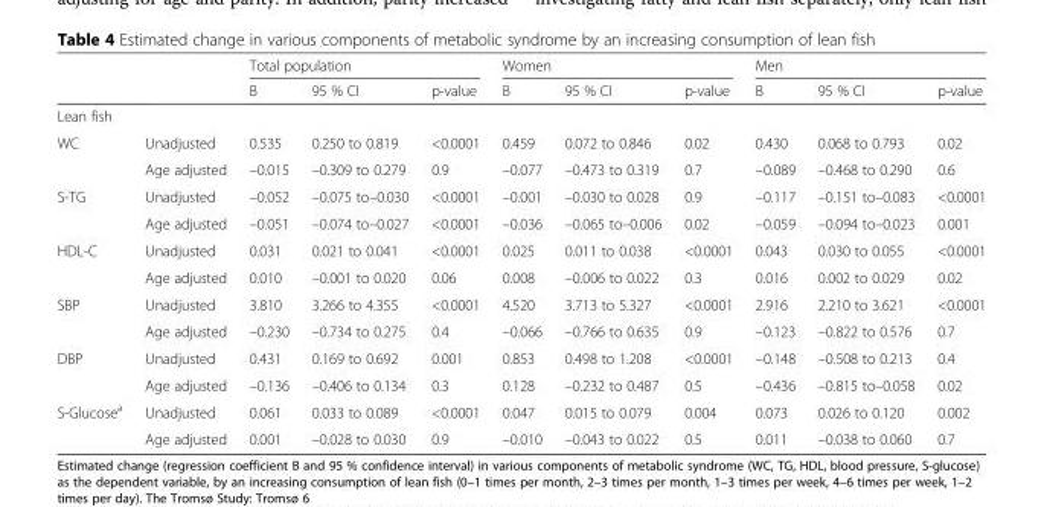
<table><thead><tr><td rowspan="2"></td><td rowspan="2"></td><td colspan="3">Total population</td><td colspan="3">Women</td><td colspan="3">Men</td></tr><tr><td>B</td><td>95 % CI</td><td>p-value</td><td>B</td><td>95 % CI</td><td>p-value</td><td>B</td><td>95 % CI</td><td>p-value</td></tr></thead><tbody><tr><td colspan="11">Lean fish</td></tr><tr><td rowspan="2">WC</td><td>Unadjusted</td><td>0.535</td><td>0.250 to 0.819</td><td>&lt;0.0001</td><td>0.459</td><td>0.072 to 0.846</td><td>0.02</td><td>0.430</td><td>0.068 to 0.793</td><td>0.02</td></tr><tr><td>Age adjusted</td><td>–0.015</td><td>–0.309 to 0.279</td><td>0.9</td><td>–0.077</td><td>–0.473 to 0.319</td><td>0.7</td><td>–0.089</td><td>–0.468 to 0.290</td><td>0.6</td></tr><tr><td rowspan="2">S-TG</td><td>Unadjusted</td><td>–0.052</td><td>–0.075 to–0.030</td><td>&lt;0.0001</td><td>–0.001</td><td>–0.030 to 0.028</td><td>0.9</td><td>–0.117</td><td>–0.151 to–0.083</td><td>&lt;0.0001</td></tr><tr><td>Age adjusted</td><td>–0.051</td><td>–0.074 to–0.027</td><td>&lt;0.0001</td><td>–0.036</td><td>–0.065 to–0.006</td><td>0.02</td><td>–0.059</td><td>–0.094 to–0.023</td><td>0.001</td></tr><tr><td rowspan="2">HDL-C</td><td>Unadjusted</td><td>0.031</td><td>0.021 to 0.041</td><td>&lt;0.0001</td><td>0.025</td><td>0.011 to 0.038</td><td>&lt;0.0001</td><td>0.043</td><td>0.030 to 0.055</td><td>&lt;0.0001</td></tr><tr><td>Age adjusted</td><td>0.010</td><td>–0.001 to 0.020</td><td>0.06</td><td>0.008</td><td>–0.006 to 0.022</td><td>0.3</td><td>0.016</td><td>0.002 to 0.029</td><td>0.02</td></tr><tr><td rowspan="2">SBP</td><td>Unadjusted</td><td>3.810</td><td>3.266 to 4.355</td><td>&lt;0.0001</td><td>4.520</td><td>3.713 to 5.327</td><td>&lt;0.0001</td><td>2.916</td><td>2.210 to 3.621</td><td>&lt;0.0001</td></tr><tr><td>Age adjusted</td><td>–0.230</td><td>–0.734 to 0.275</td><td>0.4</td><td>–0.066</td><td>–0.766 to 0.635</td><td>0.9</td><td>–0.123</td><td>–0.822 to 0.576</td><td>0.7</td></tr><tr><td rowspan="2">DBP</td><td>Unadjusted</td><td>0.431</td><td>0.169 to 0.692</td><td>0.001</td><td>0.853</td><td>0.498 to 1.208</td><td>&lt;0.0001</td><td>–0.148</td><td>–0.508 to 0.213</td><td>0.4</td></tr><tr><td>Age adjusted</td><td>–0.136</td><td>–0.406 to 0.134</td><td>0.3</td><td>0.128</td><td>–0.232 to 0.487</td><td>0.5</td><td>–0.436</td><td>–0.815 to–0.058</td><td>0.02</td></tr><tr><td rowspan="2">S-Glucose<sup>a</sup></td><td>Unadjusted</td><td>0.061</td><td>0.033 to 0.089</td><td>&lt;0.0001</td><td>0.047</td><td>0.015 to 0.079</td><td>0.004</td><td>0.073</td><td>0.026 to 0.120</td><td>0.002</td></tr><tr><td>Age adjusted</td><td>0.001</td><td>–0.028 to 0.030</td><td>0.9</td><td>–0.010</td><td>–0.043 to 0.022</td><td>0.5</td><td>0.011</td><td>–0.038 to 0.060</td><td>0.7</td></tr></tbody></table>